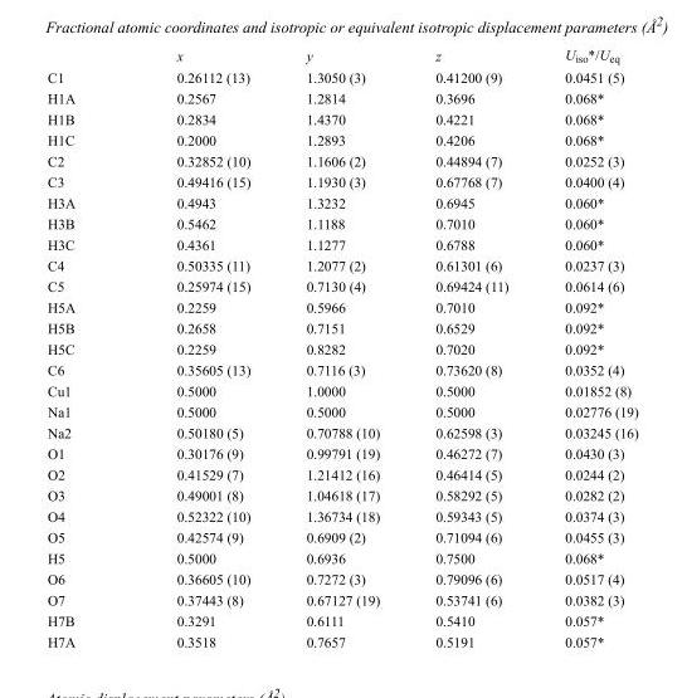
<table><thead><tr><td></td><td>x</td><td>y</td><td>z</td><td>U<sub>iso</sub>*/U<sub>eq</sub></td></tr></thead><tbody><tr><td>C1</td><td>0.26112 (13)</td><td>1.3050 (3)</td><td>0.41200 (9)</td><td>0.0451 (5)</td></tr><tr><td>H1A</td><td>0.2567</td><td>1.2814</td><td>0.3696</td><td>0.068*</td></tr><tr><td>H1B</td><td>0.2834</td><td>1.4370</td><td>0.4221</td><td>0.068*</td></tr><tr><td>H1C</td><td>0.2000</td><td>1.2893</td><td>0.4206</td><td>0.068*</td></tr><tr><td>C2</td><td>0.32852 (10)</td><td>1.1606 (2)</td><td>0.44894 (7)</td><td>0.0252 (3)</td></tr><tr><td>C3</td><td>0.49416 (15)</td><td>1.1930 (3)</td><td>0.67768 (7)</td><td>0.0400 (4)</td></tr><tr><td>H3A</td><td>0.4943</td><td>1.3232</td><td>0.6945</td><td>0.060*</td></tr><tr><td>H3B</td><td>0.5462</td><td>1.1188</td><td>0.7010</td><td>0.060*</td></tr><tr><td>H3C</td><td>0.4361</td><td>1.1277</td><td>0.6788</td><td>0.060*</td></tr><tr><td>C4</td><td>0.50335 (11)</td><td>1.2077 (2)</td><td>0.61301 (6)</td><td>0.0237 (3)</td></tr><tr><td>C5</td><td>0.25974 (15)</td><td>0.7130 (4)</td><td>0.69424 (11)</td><td>0.0614 (6)</td></tr><tr><td>H5A</td><td>0.2259</td><td>0.5966</td><td>0.7010</td><td>0.092*</td></tr><tr><td>H5B</td><td>0.2658</td><td>0.7151</td><td>0.6529</td><td>0.092*</td></tr><tr><td>H5C</td><td>0.2259</td><td>0.8282</td><td>0.7020</td><td>0.092*</td></tr><tr><td>C6</td><td>0.35605 (13)</td><td>0.7116 (3)</td><td>0.73620 (8)</td><td>0.0352 (4)</td></tr><tr><td>Cu1</td><td>0.5000</td><td>1.0000</td><td>0.5000</td><td>0.01852 (8)</td></tr><tr><td>Na1</td><td>0.5000</td><td>0.5000</td><td>0.5000</td><td>0.02776 (19)</td></tr><tr><td>Na2</td><td>0.50180 (5)</td><td>0.70788 (10)</td><td>0.62598 (3)</td><td>0.03245 (16)</td></tr><tr><td>O1</td><td>0.30176 (9)</td><td>0.99791 (19)</td><td>0.46272 (7)</td><td>0.0430 (3)</td></tr><tr><td>O2</td><td>0.41529 (7)</td><td>1.21412 (16)</td><td>0.46414 (5)</td><td>0.0244 (2)</td></tr><tr><td>O3</td><td>0.49001 (8)</td><td>1.04618 (17)</td><td>0.58292 (5)</td><td>0.0282 (2)</td></tr><tr><td>O4</td><td>0.52322 (10)</td><td>1.36734 (18)</td><td>0.59343 (5)</td><td>0.0374 (3)</td></tr><tr><td>O5</td><td>0.42574 (9)</td><td>0.6909 (2)</td><td>0.71094 (6)</td><td>0.0455 (3)</td></tr><tr><td>H5</td><td>0.5000</td><td>0.6936</td><td>0.7500</td><td>0.068*</td></tr><tr><td>O6</td><td>0.36605 (10)</td><td>0.7272 (3)</td><td>0.79096 (6)</td><td>0.0517 (4)</td></tr><tr><td>O7</td><td>0.37443 (8)</td><td>0.67127 (19)</td><td>0.53741 (6)</td><td>0.0382 (3)</td></tr><tr><td>H7B</td><td>0.3291</td><td>0.6111</td><td>0.5410</td><td>0.057*</td></tr><tr><td>H7A</td><td>0.3518</td><td>0.7657</td><td>0.5191</td><td>0.057*</td></tr></tbody></table>